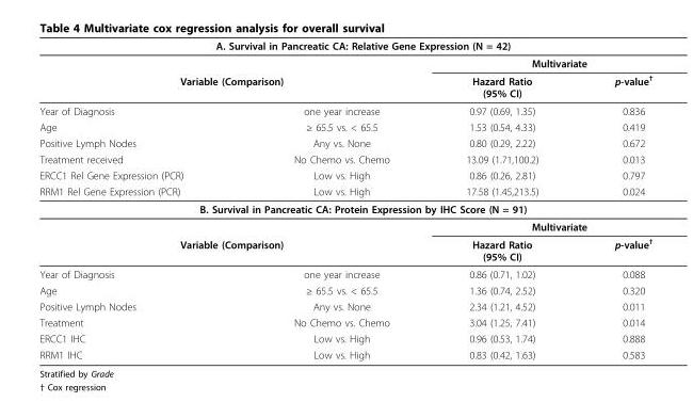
<table><thead><tr><td colspan="4">A. Survival in Pancreatic CA: Relative Gene Expression (N = 42)</td></tr><tr><td></td><td></td><td colspan="2">Multivariate</td></tr><tr><td colspan="2">Variable (Comparison)</td><td>Hazard Ratio (95% CI)</td><td>p-value<sup>†</sup></td></tr></thead><tbody><tr><td>Year of Diagnosis</td><td>one year increase</td><td>0.97 (0.69, 1.35)</td><td>0.836</td></tr><tr><td>Age</td><td>≥ 65.5 vs. &lt; 65.5</td><td>1.53 (0.54, 4.33)</td><td>0.419</td></tr><tr><td>Positive Lymph Nodes</td><td>Any vs. None</td><td>0.80 (0.29, 2.22)</td><td>0.672</td></tr><tr><td>Treatment received</td><td>No Chemo vs. Chemo</td><td>13.09 (1.71,100.2)</td><td>0.013</td></tr><tr><td>ERCC1 Rel Gene Expression (PCR)</td><td>Low vs. High</td><td>0.86 (0.26, 2.81)</td><td>0.797</td></tr><tr><td>RRM1 Rel Gene Expression (PCR)</td><td>Low vs. High</td><td>17.58 (1.45,213.5)</td><td>0.024</td></tr><tr><td colspan="4">B. Survival in Pancreatic CA: Protein Expression by IHC Score (N = 91)</td></tr><tr><td></td><td></td><td colspan="2">Multivariate</td></tr><tr><td colspan="2">Variable (Comparison)</td><td>Hazard Ratio (95% CI)</td><td>p-value<sup>†</sup></td></tr><tr><td>Year of Diagnosis</td><td>one year increase</td><td>0.86 (0.71, 1.02)</td><td>0.088</td></tr><tr><td>Age</td><td>≥ 65.5 vs. &lt; 65.5</td><td>1.36 (0.74, 2.52)</td><td>0.320</td></tr><tr><td>Positive Lymph Nodes</td><td>Any vs. None</td><td>2.34 (1.21, 4.52)</td><td>0.011</td></tr><tr><td>Treatment</td><td>No Chemo vs. Chemo</td><td>3.04 (1.25, 7.41)</td><td>0.014</td></tr><tr><td>ERCC1 IHC</td><td>Low vs. High</td><td>0.96 (0.53, 1.74)</td><td>0.888</td></tr><tr><td>RRM1 IHC</td><td>Low vs. High</td><td>0.83 (0.42, 1.63)</td><td>0.583</td></tr></tbody></table>